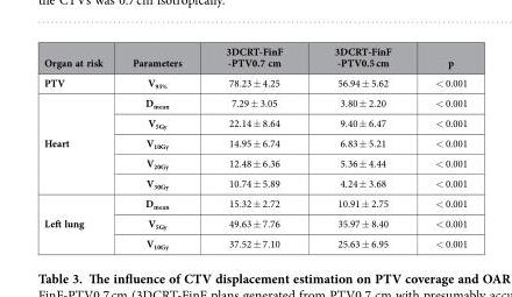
<table><thead><tr><td>Organ at risk</td><td>Parameters</td><td>3DCRT-FinF -PTV0.7 cm</td><td>3DCRT-FinF -PTV0.5 cm</td><td>p</td></tr></thead><tbody><tr><td>PTV</td><td>V<sub>95%</sub></td><td>78.23 ± 4.25</td><td>56.94 ± 5.62</td><td>&lt; 0.001</td></tr><tr><td rowspan="5">Heart</td><td>D<sub>mean</sub></td><td>7.29 ± 3.05</td><td>3.80 ± 2.20</td><td>&lt; 0.001</td></tr><tr><td>V<sub>5Gy</sub></td><td>22.14 ± 8.64</td><td>9.40 ± 6.47</td><td>&lt; 0.001</td></tr><tr><td>V<sub>10Gy</sub></td><td>14.95 ± 6.74</td><td>6.83 ± 5.21</td><td>&lt; 0.001</td></tr><tr><td>V<sub>20Gy</sub></td><td>12.48 ± 6.36</td><td>5.36 ± 4.44</td><td>&lt; 0.001</td></tr><tr><td>V<sub>30Gy</sub></td><td>10.74 ± 5.89</td><td>4.24 ± 3.68</td><td>&lt; 0.001</td></tr><tr><td rowspan="3">Left lung</td><td>D<sub>mean</sub></td><td>15.32 ± 2.72</td><td>10.91 ± 2.75</td><td>&lt; 0.001</td></tr><tr><td>V<sub>5Gy</sub></td><td>49.63 ± 7.76</td><td>35.97 ± 8.40</td><td>&lt; 0.001</td></tr><tr><td>V<sub>10Gy</sub></td><td>37.52 ± 7.10</td><td>25.63 ± 6.95</td><td>&lt; 0.001</td></tr></tbody></table>